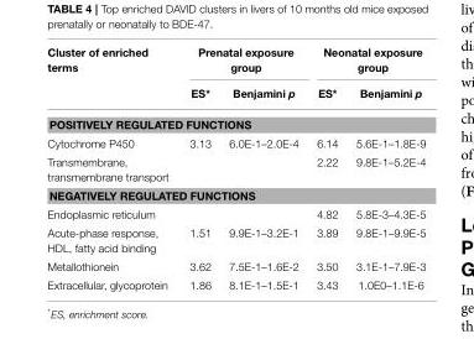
<table><thead><tr><td rowspan="2">Cluster of enriched terms</td><td colspan="2">Prenatal exposure group</td><td colspan="2">Neonatal exposure group</td></tr><tr><td>ES*</td><td>Benjamini p</td><td>ES*</td><td>Benjamini p</td></tr></thead><tbody><tr><td colspan="5">POSITIVELY REGULATED FUNCTIONS</td></tr><tr><td>Cytochrome P450</td><td>3.13</td><td>6.0E-1–2.0E-4</td><td>6.14</td><td>5.6E-1–1.8E-9</td></tr><tr><td>Transmembrane, transmembrane transport</td><td></td><td></td><td>2.22</td><td>9.8E-1–5.2E-4</td></tr><tr><td colspan="5">NEGATIVELY REGULATED FUNCTIONS</td></tr><tr><td>Endoplasmic reticulum</td><td></td><td></td><td>4.82</td><td>5.8E-3–4.3E-5</td></tr><tr><td>Acute-phase response, HDL, fatty acid binding</td><td>1.51</td><td>9.9E-1–3.2E-1</td><td>3.89</td><td>9.8E-1–9.9E-5</td></tr><tr><td>Metallothionein</td><td>3.62</td><td>7.5E-1–1.6E-2</td><td>3.50</td><td>3.1E-1–7.9E-3</td></tr><tr><td>Extracellular, glycoprotein</td><td>1.86</td><td>8.1E-1–1.5E-1</td><td>3.43</td><td>1.0E0–1.1E-6</td></tr></tbody></table>